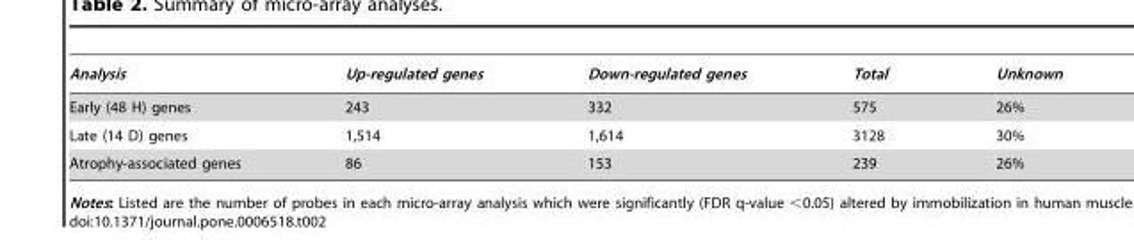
<table><thead><tr><td>Analysis</td><td>Up-regulated genes</td><td>Down-regulated genes</td><td>Total</td><td>Unknown</td></tr></thead><tbody><tr><td>Early (48 H) genes</td><td>243</td><td>332</td><td>575</td><td>26%</td></tr><tr><td>Late (14 D) genes</td><td>1,514</td><td>1,614</td><td>3128</td><td>30%</td></tr><tr><td>Atrophy-associated genes</td><td>86</td><td>153</td><td>239</td><td>26%</td></tr></tbody></table>